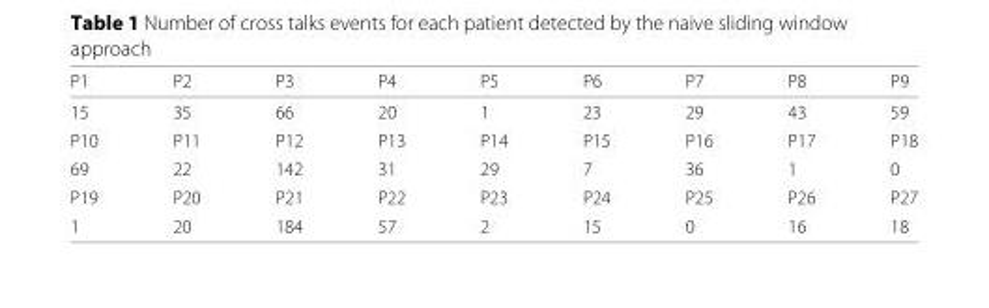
<table><thead><tr><td>P1</td><td>P2</td><td>P3</td><td>P4</td><td>P5</td><td>P6</td><td>P7</td><td>P8</td><td>P9</td></tr></thead><tbody><tr><td>15</td><td>35</td><td>66</td><td>20</td><td>1</td><td>23</td><td>29</td><td>43</td><td>59</td></tr><tr><td>P10</td><td>P11</td><td>P12</td><td>P13</td><td>P14</td><td>P15</td><td>P16</td><td>P17</td><td>P18</td></tr><tr><td>69</td><td>22</td><td>142</td><td>31</td><td>29</td><td>7</td><td>36</td><td>1</td><td>0</td></tr><tr><td>P19</td><td>P20</td><td>P21</td><td>P22</td><td>P23</td><td>P24</td><td>P25</td><td>P26</td><td>P27</td></tr><tr><td>1</td><td>20</td><td>184</td><td>57</td><td>2</td><td>15</td><td>0</td><td>16</td><td>18</td></tr></tbody></table>